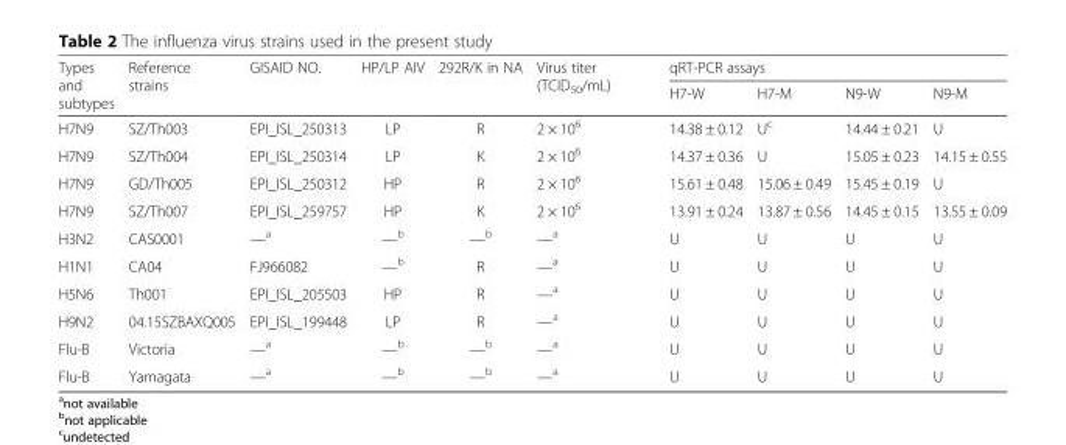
<table><thead><tr><td rowspan="2">Types and subtypes</td><td rowspan="2">Reference strains</td><td rowspan="2">GISAID NO.</td><td rowspan="2">HP/LP AIV</td><td rowspan="2">292R/K in NA</td><td rowspan="2">Virus titer (TCID<sub>50</sub>/mL)</td><td colspan="4">qRT-PCR assays</td></tr><tr><td>H7-W</td><td>H7-M</td><td>N9-W</td><td>N9-M</td></tr></thead><tbody><tr><td>H7N9</td><td>SZ/Th003</td><td>EPI_ISL_250313</td><td>LP</td><td>R</td><td>2 × 10<sup>6</sup></td><td>14.38 ± 0.12</td><td>U<sup>c</sup></td><td>14.44 ± 0.21</td><td>U</td></tr><tr><td>H7N9</td><td>SZ/Th004</td><td>EPI_ISL_250314</td><td>LP</td><td>K</td><td>2 × 10<sup>6</sup></td><td>14.37 ± 0.36</td><td>U</td><td>15.05 ± 0.23</td><td>14.15 ± 0.55</td></tr><tr><td>H7N9</td><td>GD/Th005</td><td>EPI_ISL_250312</td><td>HP</td><td>R</td><td>2 × 10<sup>6</sup></td><td>15.61 ± 0.48</td><td>15.06 ± 0.49</td><td>15.45 ± 0.19</td><td>U</td></tr><tr><td>H7N9</td><td>SZ/Th007</td><td>EPI_ISL_259757</td><td>HP</td><td>K</td><td>2 × 10<sup>6</sup></td><td>13.91 ± 0.24</td><td>13.87 ± 0.56</td><td>14.45 ± 0.15</td><td>13.55 ± 0.09</td></tr><tr><td>H3N2</td><td>CAS0001</td><td>—<sup>a</sup></td><td>—<sup>b</sup></td><td>—<sup>b</sup></td><td>—<sup>a</sup></td><td>U</td><td>U</td><td>U</td><td>U</td></tr><tr><td>H1N1</td><td>CA04</td><td>FJ966082</td><td>—<sup>b</sup></td><td>R</td><td>—<sup>a</sup></td><td>U</td><td>U</td><td>U</td><td>U</td></tr><tr><td>H5N6</td><td>Th001</td><td>EPI_ISL_205503</td><td>HP</td><td>R</td><td>—<sup>a</sup></td><td>U</td><td>U</td><td>U</td><td>U</td></tr><tr><td>H9N2</td><td>04.15SZBAXQ005</td><td>EPI_ISL_199448</td><td>LP</td><td>R</td><td>—<sup>a</sup></td><td>U</td><td>U</td><td>U</td><td>U</td></tr><tr><td>Flu-B</td><td>Victoria</td><td>—<sup>a</sup></td><td>—<sup>b</sup></td><td>—<sup>b</sup></td><td>—<sup>a</sup></td><td>U</td><td>U</td><td>U</td><td>U</td></tr><tr><td>Flu-B</td><td>Yamagata</td><td>—<sup>a</sup></td><td>—<sup>b</sup></td><td>—<sup>b</sup></td><td>—<sup>a</sup></td><td>U</td><td>U</td><td>U</td><td>U</td></tr></tbody></table>